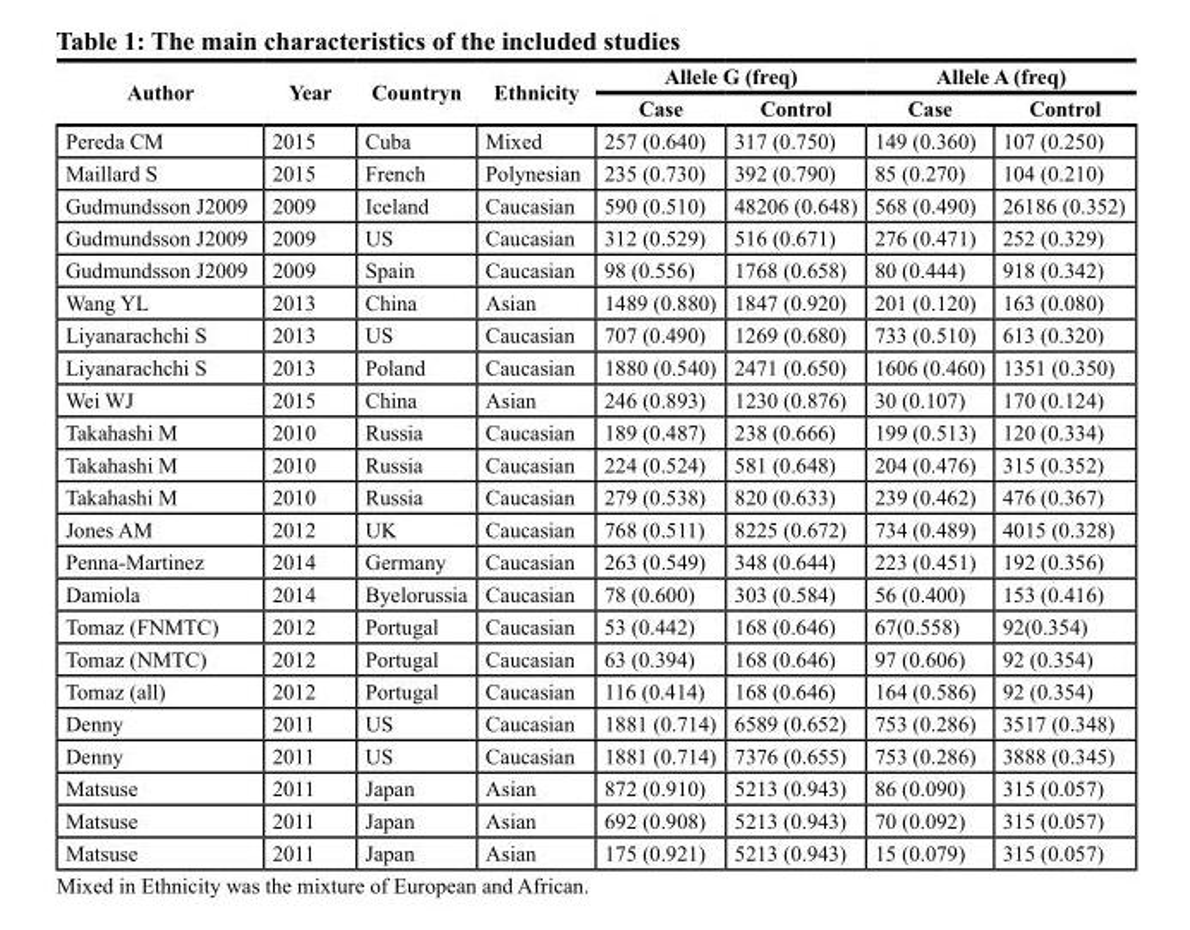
<table><thead><tr><td rowspan="2">Author</td><td rowspan="2">Year</td><td rowspan="2">countryn</td><td rowspan="2">ethnicity</td><td colspan="2">Allele G (freq)</td><td colspan="2">Allele A (freq)</td></tr><tr><td>case</td><td>control</td><td>case</td><td>control</td></tr></thead><tbody><tr><td>Pereda CM</td><td>2015</td><td>Cuba</td><td>Mixed</td><td>257 (0.640)</td><td>317 (0.750)</td><td>149 (0.360)</td><td>107 (0.250)</td></tr><tr><td>Maillard S</td><td>2015</td><td>French</td><td>Polynesian</td><td>235 (0.730)</td><td>392 (0.790)</td><td>85 (0.270)</td><td>104 (0.210)</td></tr><tr><td>Gudmundsson J2009</td><td>2009</td><td>Iceland</td><td>Caucasian</td><td>590 (0.510)</td><td>48206 (0.648)</td><td>568 (0.490)</td><td>26186 (0.352)</td></tr><tr><td>Gudmundsson J2009</td><td>2009</td><td>US</td><td>Caucasian</td><td>312 (0.529)</td><td>516 (0.671)</td><td>276 (0.471)</td><td>252 (0.329)</td></tr><tr><td>Gudmundsson J2009</td><td>2009</td><td>Spain</td><td>Caucasian</td><td>98 (0.556)</td><td>1768 (0.658)</td><td>80 (0.444)</td><td>918 (0.342)</td></tr><tr><td>Wang YL</td><td>2013</td><td>China</td><td>Asian</td><td>1489 (0.880)</td><td>1847 (0.920)</td><td>201 (0.120)</td><td>163 (0.080)</td></tr><tr><td>Liyanarachchi S</td><td>2013</td><td>US</td><td>Caucasian</td><td>707 (0.490)</td><td>1269 (0.680)</td><td>733 (0.510)</td><td>613 (0.320)</td></tr><tr><td>Liyanarachchi S</td><td>2013</td><td>Poland</td><td>Caucasian</td><td>1880 (0.540)</td><td>2471 (0.650)</td><td>1606 (0.460)</td><td>1351 (0.350)</td></tr><tr><td>Wei WJ</td><td>2015</td><td>China</td><td>Asian</td><td>246 (0.893)</td><td>1230 (0.876)</td><td>30 (0.107)</td><td>170 (0.124)</td></tr><tr><td>Takahashi M</td><td>2010</td><td>Russia</td><td>Caucasian</td><td>189 (0.487)</td><td>238 (0.666)</td><td>199 (0.513)</td><td>120 (0.334)</td></tr><tr><td>Takahashi M</td><td>2010</td><td>Russia</td><td>Caucasian</td><td>224 (0.524)</td><td>581 (0.648)</td><td>204 (0.476)</td><td>315 (0.352)</td></tr><tr><td>Takahashi M</td><td>2010</td><td>Russia</td><td>Caucasian</td><td>279 (0.538)</td><td>820 (0.633)</td><td>239 (0.462)</td><td>476 (0.367)</td></tr><tr><td>Jones AM</td><td>2012</td><td>UK</td><td>Caucasian</td><td>768 (0.511)</td><td>8225 (0.672)</td><td>734 (0.489)</td><td>4015 (0.328)</td></tr><tr><td>Penna-Martinez</td><td>2014</td><td>Germany</td><td>Caucasian</td><td>263 (0.549)</td><td>348 (0.644)</td><td>223 (0.451)</td><td>192 (0.356)</td></tr><tr><td>Damiola</td><td>2014</td><td>Byelorussia</td><td>Caucasian</td><td>78 (0.600)</td><td>303 (0.584)</td><td>56 (0.400)</td><td>153 (0.416)</td></tr><tr><td>Tomaz (FNMTC)</td><td>2012</td><td>Portugal</td><td>Caucasian</td><td>53 (0.442)</td><td>168 (0.646)</td><td>67(0.558)</td><td>92(0.354)</td></tr><tr><td>Tomaz (NMTC)</td><td>2012</td><td>Portugal</td><td>Caucasian</td><td>63 (0.394)</td><td>168 (0.646)</td><td>97 (0.606)</td><td>92 (0.354)</td></tr><tr><td>Tomaz (all)</td><td>2012</td><td>Portugal</td><td>Caucasian</td><td>116 (0.414)</td><td>168 (0.646)</td><td>164 (0.586)</td><td>92 (0.354)</td></tr><tr><td>Denny</td><td>2011</td><td>US</td><td>Caucasian</td><td>1881 (0.714)</td><td>6589 (0.652)</td><td>753 (0.286)</td><td>3517 (0.348)</td></tr><tr><td>Denny</td><td>2011</td><td>US</td><td>Caucasian</td><td>1881 (0.714)</td><td>7376 (0.655)</td><td>753 (0.286)</td><td>3888 (0.345)</td></tr><tr><td>Matsuse</td><td>2011</td><td>Japan</td><td>Asian</td><td>872 (0.910)</td><td>5213 (0.943)</td><td>86 (0.090)</td><td>315 (0.057)</td></tr><tr><td>Matsuse</td><td>2011</td><td>Japan</td><td>Asian</td><td>692 (0.908)</td><td>5213 (0.943)</td><td>70 (0.092)</td><td>315 (0.057)</td></tr><tr><td>Matsuse</td><td>2011</td><td>Japan</td><td>Asian</td><td>175 (0.921)</td><td>5213 (0.943)</td><td>15 (0.079)</td><td>315 (0.057)</td></tr></tbody></table>